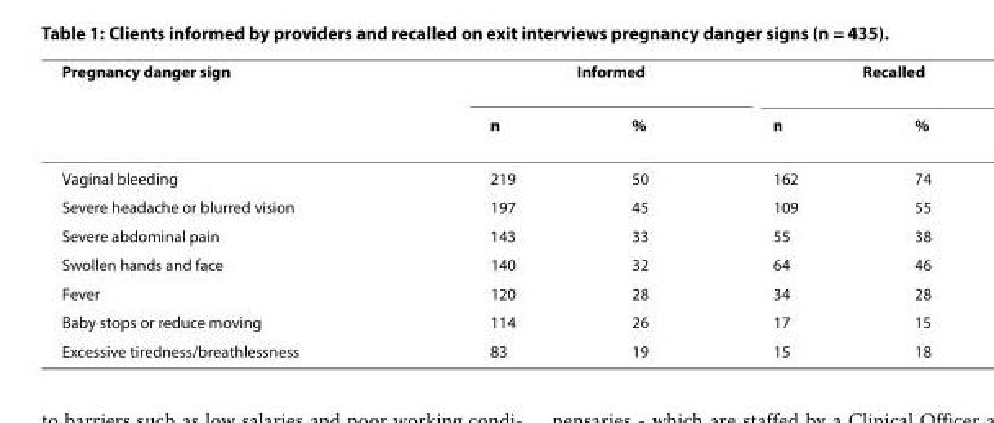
<table><thead><tr><td rowspan="2">Pregnancy danger sign</td><td colspan="2">Informed</td><td colspan="2">Recalled</td></tr><tr><td>n</td><td>%</td><td>n</td><td>%</td></tr></thead><tbody><tr><td>Vaginal bleeding</td><td>219</td><td>50</td><td>162</td><td>74</td></tr><tr><td>Severe headache or blurred vision</td><td>197</td><td>45</td><td>109</td><td>55</td></tr><tr><td>Severe abdominal pain</td><td>143</td><td>33</td><td>55</td><td>38</td></tr><tr><td>Swollen hands and face</td><td>140</td><td>32</td><td>64</td><td>46</td></tr><tr><td>Fever</td><td>120</td><td>28</td><td>34</td><td>28</td></tr><tr><td>Baby stops or reduce moving</td><td>114</td><td>26</td><td>17</td><td>15</td></tr><tr><td>Excessive tiredness/breathlessness</td><td>83</td><td>19</td><td>15</td><td>18</td></tr></tbody></table>